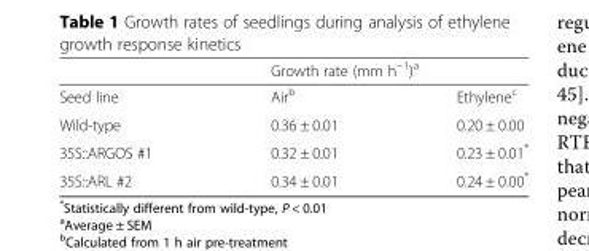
<table><thead><tr><td rowspan="2">Seed line</td><td colspan="2">Growth rate (mm h<sup>−1</sup>)<sup>a</sup></td></tr><tr><td>Air<sup>b</sup></td><td>Ethylene<sup>c</sup></td></tr></thead><tbody><tr><td>Wild-type</td><td>0.36 ± 0.01</td><td>0.20 ± 0.00</td></tr><tr><td>35S::ARGOS #1</td><td>0.32 ± 0.01</td><td>0.23 ± 0.01*</td></tr><tr><td>35S::ARL #2</td><td>0.34 ± 0.01</td><td>0.24 ± 0.00*</td></tr></tbody></table>